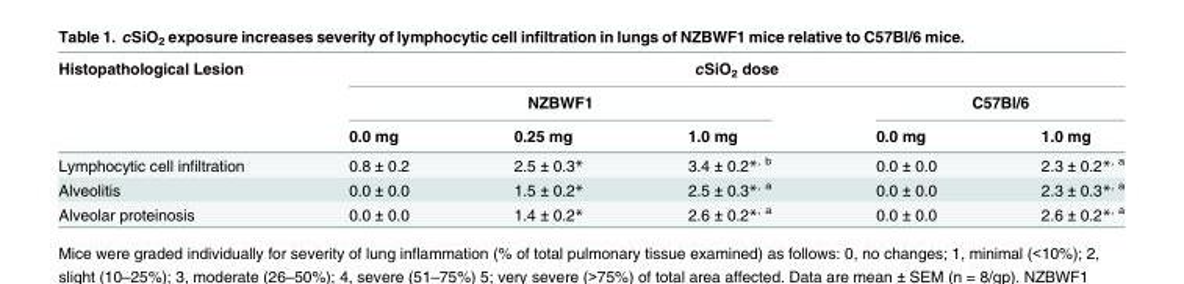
<table><thead><tr><td rowspan="3">Histopathological Lesion</td><td colspan="5">cSiO<sub>2</sub> dose</td></tr><tr><td colspan="3">NZBWF1</td><td colspan="2">C57Bl/6</td></tr><tr><td>0.0 mg</td><td>0.25 mg</td><td>1.0 mg</td><td>0.0 mg</td><td>1.0 mg</td></tr></thead><tbody><tr><td>Lymphocytic cell infiltration</td><td>0.8 ± 0.2</td><td>2.5 ± 0.3*</td><td>3.4 ± 0.2*<sup>, b</sup></td><td>0.0 ± 0.0</td><td>2.3 ± 0.2*<sup>, a</sup></td></tr><tr><td>Alveolitis</td><td>0.0 ± 0.0</td><td>1.5 ± 0.2*</td><td>2.5 ± 0.3*<sup>, a</sup></td><td>0.0 ± 0.0</td><td>2.3 ± 0.3*<sup>, a</sup></td></tr><tr><td>Alveolar proteinosis</td><td>0.0 ± 0.0</td><td>1.4 ± 0.2*</td><td>2.6 ± 0.2*<sup>, a</sup></td><td>0.0 ± 0.0</td><td>2.6 ± 0.2*<sup>, a</sup></td></tr></tbody></table>